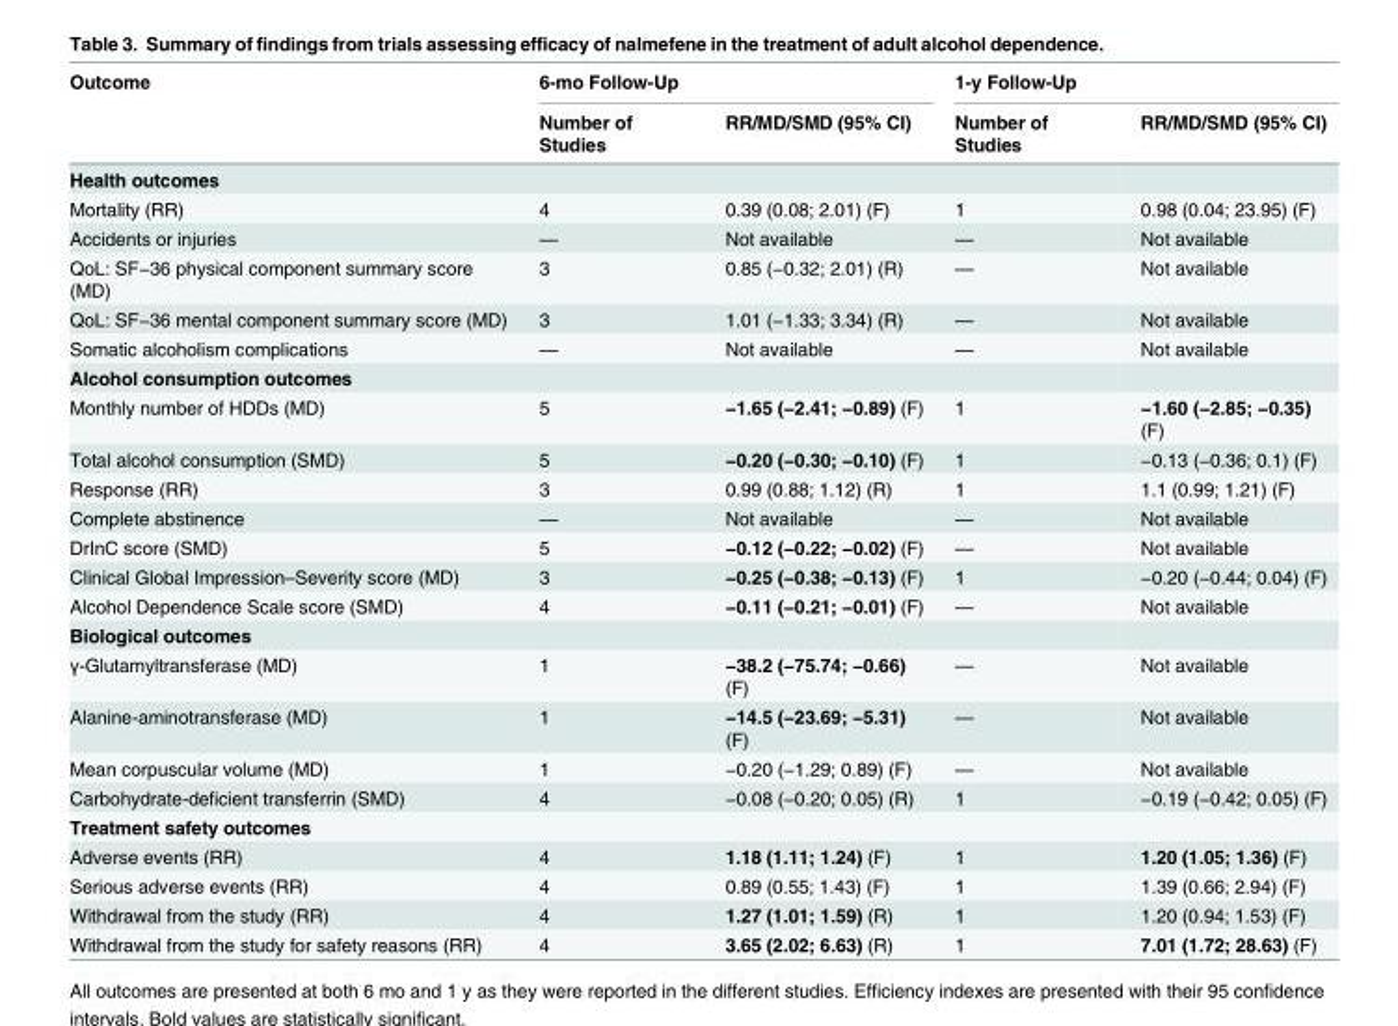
<table><thead><tr><td rowspan="2">Outcome</td><td colspan="2">6-mo Follow-Up</td><td colspan="2">1-y Follow-Up</td></tr><tr><td>Number of Studies</td><td>RR/MD/SMD (95% CI)</td><td>Number of Studies</td><td>RR/MD/SMD (95% CI)</td></tr></thead><tbody><tr><td colspan="5">Health outcomes</td></tr><tr><td>Mortality (RR)</td><td>4</td><td>0.39 (0.08; 2.01) (F)</td><td>1</td><td>0.98 (0.04; 23.95) (F)</td></tr><tr><td>Accidents or injuries</td><td>—</td><td>Not available</td><td>—</td><td>Not available</td></tr><tr><td>QoL: SF−36 physical component summary score (MD)</td><td>3</td><td>0.85 (−0.32; 2.01) (R)</td><td>—</td><td>Not available</td></tr><tr><td>QoL: SF−36 mental component summary score (MD)</td><td>3</td><td>1.01 (−1.33; 3.34) (R)</td><td>—</td><td>Not available</td></tr><tr><td>Somatic alcoholism complications</td><td>—</td><td>Not available</td><td>—</td><td>Not available</td></tr><tr><td colspan="5">Alcohol consumption outcomes</td></tr><tr><td>Monthly number of HDDs (MD)</td><td>5</td><td>−1.65 (−2.41; −0.89) (F)</td><td>1</td><td>−1.60 (−2.85; −0.35) (F)</td></tr><tr><td>Total alcohol consumption (SMD)</td><td>5</td><td>−0.20 (−0.30; −0.10) (F)</td><td>1</td><td>−0.13 (−0.36; 0.1) (F)</td></tr><tr><td>Response (RR)</td><td>3</td><td>0.99 (0.88; 1.12) (R)</td><td>1</td><td>1.1 (0.99; 1.21) (F)</td></tr><tr><td>Complete abstinence</td><td>—</td><td>Not available</td><td>—</td><td>Not available</td></tr><tr><td>DrInC score (SMD)</td><td>5</td><td>−0.12 (−0.22; −0.02) (F)</td><td>—</td><td>Not available</td></tr><tr><td>Clinical Global Impression–Severity score (MD)</td><td>3</td><td>−0.25 (−0.38; −0.13) (F)</td><td>1</td><td>−0.20 (−0.44; 0.04) (F)</td></tr><tr><td>Alcohol Dependence Scale score (SMD)</td><td>4</td><td>−0.11 (−0.21; −0.01) (F)</td><td>—</td><td>Not available</td></tr><tr><td colspan="5">Biological outcomes</td></tr><tr><td>γ-Glutamyltransferase (MD)</td><td>1</td><td>−38.2 (−75.74; −0.66) (F)</td><td>—</td><td>Not available</td></tr><tr><td>Alanine-aminotransferase (MD)</td><td>1</td><td>−14.5 (−23.69; −5.31) (F)</td><td>—</td><td>Not available</td></tr><tr><td>Mean corpuscular volume (MD)</td><td>1</td><td>−0.20 (−1.29; 0.89) (F)</td><td>—</td><td>Not available</td></tr><tr><td>Carbohydrate-deficient transferrin (SMD)</td><td>4</td><td>−0.08 (−0.20; 0.05) (R)</td><td>1</td><td>−0.19 (−0.42; 0.05) (F)</td></tr><tr><td colspan="5">Treatment safety outcomes</td></tr><tr><td>Adverse events (RR)</td><td>4</td><td>1.18 (1.11; 1.24) (F)</td><td>1</td><td>1.20 (1.05; 1.36) (F)</td></tr><tr><td>Serious adverse events (RR)</td><td>4</td><td>0.89 (0.55; 1.43) (F)</td><td>1</td><td>1.39 (0.66; 2.94) (F)</td></tr><tr><td>Withdrawal from the study (RR)</td><td>4</td><td>1.27 (1.01; 1.59) (R)</td><td>1</td><td>1.20 (0.94; 1.53) (F)</td></tr><tr><td>Withdrawal from the study for safety reasons (RR)</td><td>4</td><td>3.65 (2.02; 6.63) (R)</td><td>1</td><td>7.01 (1.72; 28.63) (F)</td></tr></tbody></table>